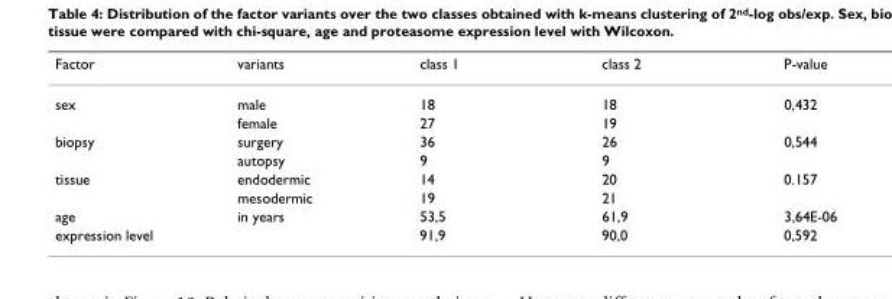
<table><thead><tr><td>Factor</td><td>variants</td><td>class 1</td><td>class 2</td><td>P-value</td></tr></thead><tbody><tr><td rowspan="2">sex</td><td>male</td><td>18</td><td>18</td><td>0,432</td></tr><tr><td>female</td><td>27</td><td>19</td><td></td></tr><tr><td rowspan="2">biopsy</td><td>surgery</td><td>36</td><td>26</td><td>0,544</td></tr><tr><td>autopsy</td><td>9</td><td>9</td><td></td></tr><tr><td rowspan="2">tissue</td><td>endodermic</td><td>14</td><td>20</td><td>0.157</td></tr><tr><td>mesodermic</td><td>19</td><td>21</td><td></td></tr><tr><td>age</td><td>in years</td><td>53,5</td><td>61,9</td><td>3,64E-06</td></tr><tr><td>expression level</td><td></td><td>91,9</td><td>90,0</td><td>0,592</td></tr></tbody></table>